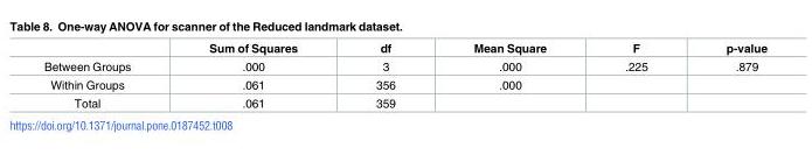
<table><thead><tr><td></td><td>Sum of Squares</td><td>df</td><td>Mean Square</td><td>F</td><td>p-value</td></tr></thead><tbody><tr><td>Between Groups</td><td>.000</td><td>3</td><td>.000</td><td>.225</td><td>.879</td></tr><tr><td>Within Groups</td><td>.061</td><td>356</td><td>.000</td><td></td><td></td></tr><tr><td>Total</td><td>.061</td><td>359</td><td></td><td></td><td></td></tr></tbody></table>